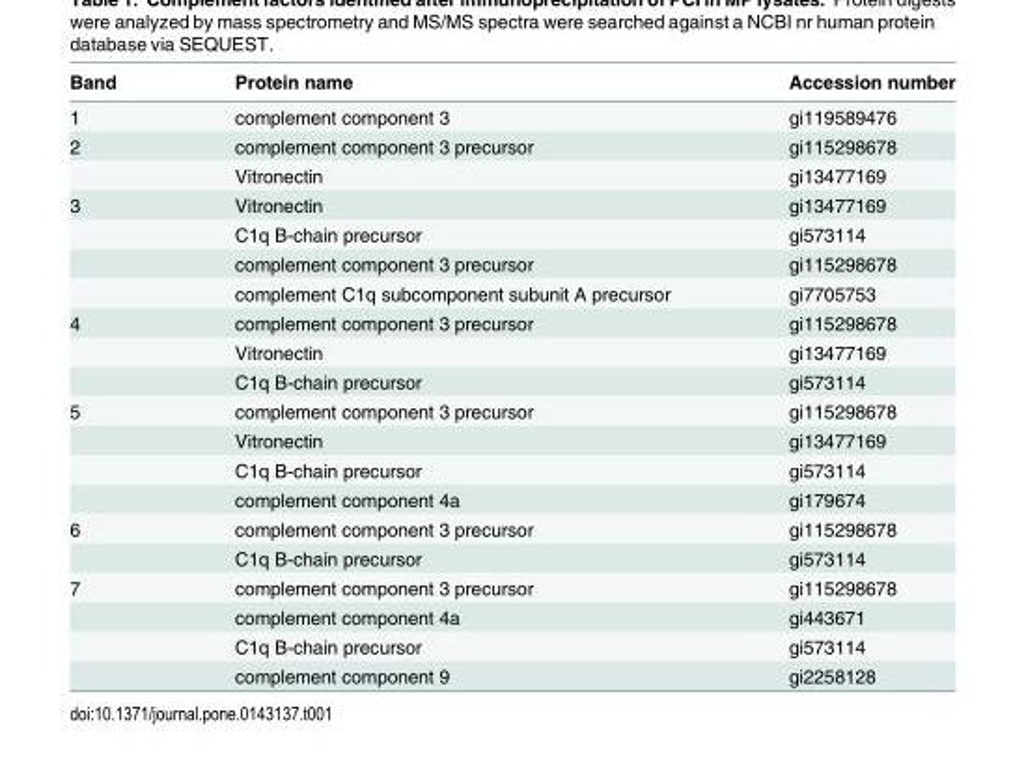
<table><thead><tr><td>Band</td><td>Protein name</td><td>Accession number</td></tr></thead><tbody><tr><td>1</td><td>complement component 3</td><td>gi119589476</td></tr><tr><td rowspan="2">2</td><td>complement component 3 precursor</td><td>gi115298678</td></tr><tr><td>Vitronectin</td><td>gi13477169</td></tr><tr><td rowspan="4">3</td><td>Vitronectin</td><td>gi13477169</td></tr><tr><td>C1q B-chain precursor</td><td>gi573114</td></tr><tr><td>complement component 3 precursor</td><td>gi115298678</td></tr><tr><td>complement C1q subcomponent subunit A precursor</td><td>gi7705753</td></tr><tr><td rowspan="3">4</td><td>complement component 3 precursor</td><td>gi115298678</td></tr><tr><td>Vitronectin</td><td>gi13477169</td></tr><tr><td>C1q B-chain precursor</td><td>gi573114</td></tr><tr><td rowspan="4">5</td><td>complement component 3 precursor</td><td>gi115298678</td></tr><tr><td>Vitronectin</td><td>gi13477169</td></tr><tr><td>C1q B-chain precursor</td><td>gi573114</td></tr><tr><td>complement component 4a</td><td>gi179674</td></tr><tr><td rowspan="2">6</td><td>complement component 3 precursor</td><td>gi115298678</td></tr><tr><td>C1q B-chain precursor</td><td>gi573114</td></tr><tr><td rowspan="4">7</td><td>complement component 3 precursor</td><td>gi115298678</td></tr><tr><td>complement component 4a</td><td>gi443671</td></tr><tr><td>C1q B-chain precursor</td><td>gi573114</td></tr><tr><td>complement component 9</td><td>gi2258128</td></tr></tbody></table>